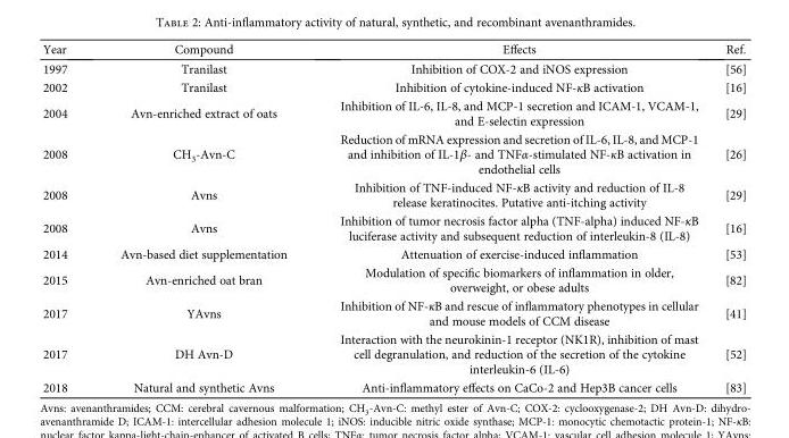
<table><thead><tr><td>Year</td><td>Compound</td><td>Effects</td><td>Ref.</td></tr></thead><tbody><tr><td>1997</td><td>Tranilast</td><td>Inhibition of COX-2 and iNOS expression</td><td>[56]</td></tr><tr><td>2002</td><td>Tranilast</td><td>Inhibition of cytokine-induced NF-κB activation</td><td>[16]</td></tr><tr><td>2004</td><td>Avn-enriched extract of oats</td><td>Inhibition of IL-6, IL-8, and MCP-1 secretion and ICAM-1, VCAM-1, and E-selectin expression</td><td>[29]</td></tr><tr><td>2008</td><td>CH<sub>3</sub>-Avn-C</td><td>Reduction of mRNA expression and secretion of IL-6, IL-8, and MCP-1 and inhibition of IL-1β- and TNFα-stimulated NF-κB activation in endothelial cells</td><td>[26]</td></tr><tr><td>2008</td><td>Avns</td><td>Inhibition of TNF-induced NF-κB activity and reduction of IL-8 release keratinocites. Putative anti-itching activity</td><td>[29]</td></tr><tr><td>2008</td><td>Avns</td><td>Inhibition of tumor necrosis factor alpha (TNF-alpha) induced NF-κB luciferase activity and subsequent reduction of interleukin-8 (IL-8)</td><td>[16]</td></tr><tr><td>2014</td><td>Avn-based diet supplementation</td><td>Attenuation of exercise-induced inflammation</td><td>[53]</td></tr><tr><td>2015</td><td>Avn-enriched oat bran</td><td>Modulation of specific biomarkers of inflammation in older, overweight, or obese adults</td><td>[82]</td></tr><tr><td>2017</td><td>YAvns</td><td>Inhibition of NF-κB and rescue of inflammatory phenotypes in cellular and mouse models of CCM disease</td><td>[41]</td></tr><tr><td>2017</td><td>DH Avn-D</td><td>Interaction with the neurokinin-1 receptor (NK1R), inhibition of mast cell degranulation, and reduction of the secretion of the cytokine interleukin-6 (IL-6)</td><td>[52]</td></tr><tr><td>2018</td><td>Natural and synthetic Avns</td><td>Anti-inflammatory effects on CaCo-2 and Hep3B cancer cells</td><td>[83]</td></tr></tbody></table>